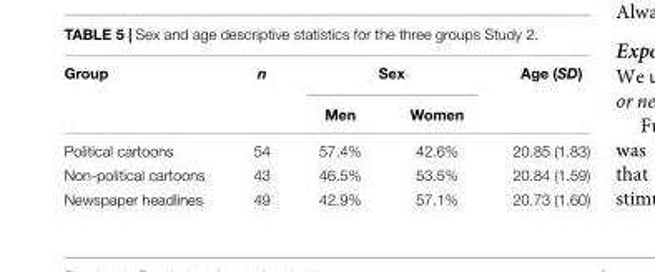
<table><thead><tr><td rowspan="2">Group</td><td rowspan="2">n</td><td colspan="2">Sex</td><td rowspan="2">Age (SD)</td></tr><tr><td>Men</td><td>Women</td></tr></thead><tbody><tr><td>Political cartoons</td><td>54</td><td>57.4%</td><td>42.6%</td><td>20.85 (1.83)</td></tr><tr><td>Non-political cartoons</td><td>43</td><td>46.5%</td><td>53.5%</td><td>20.84 (1.59)</td></tr><tr><td>Newspaper headlines</td><td>49</td><td>42.9%</td><td>57.1%</td><td>20.73 (1.60)</td></tr></tbody></table>